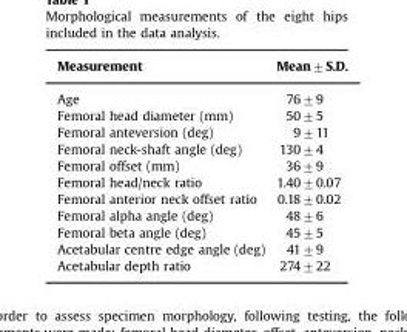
<table><thead><tr><td>Measurement</td><td>Mean±S.D.</td></tr></thead><tbody><tr><td>Age</td><td>76±9</td></tr><tr><td>Femoral head diameter (mm)</td><td>50±5</td></tr><tr><td>Femoral anteversion (deg)</td><td>9±11</td></tr><tr><td>Femoral neck-shaft angle (deg)</td><td>130±4</td></tr><tr><td>Femoral offset (mm)</td><td>36±9</td></tr><tr><td>Femoral head/neck ratio</td><td>1.40±0.07</td></tr><tr><td>Femoral anterior neck offset ratio</td><td>0.18±0.02</td></tr><tr><td>Femoral alpha angle (deg)</td><td>48±6</td></tr><tr><td>Femoral beta angle (deg)</td><td>45±5</td></tr><tr><td>Acetabular centre edge angle (deg)</td><td>41±9</td></tr><tr><td>Acetabular depth ratio</td><td>274±22</td></tr></tbody></table>